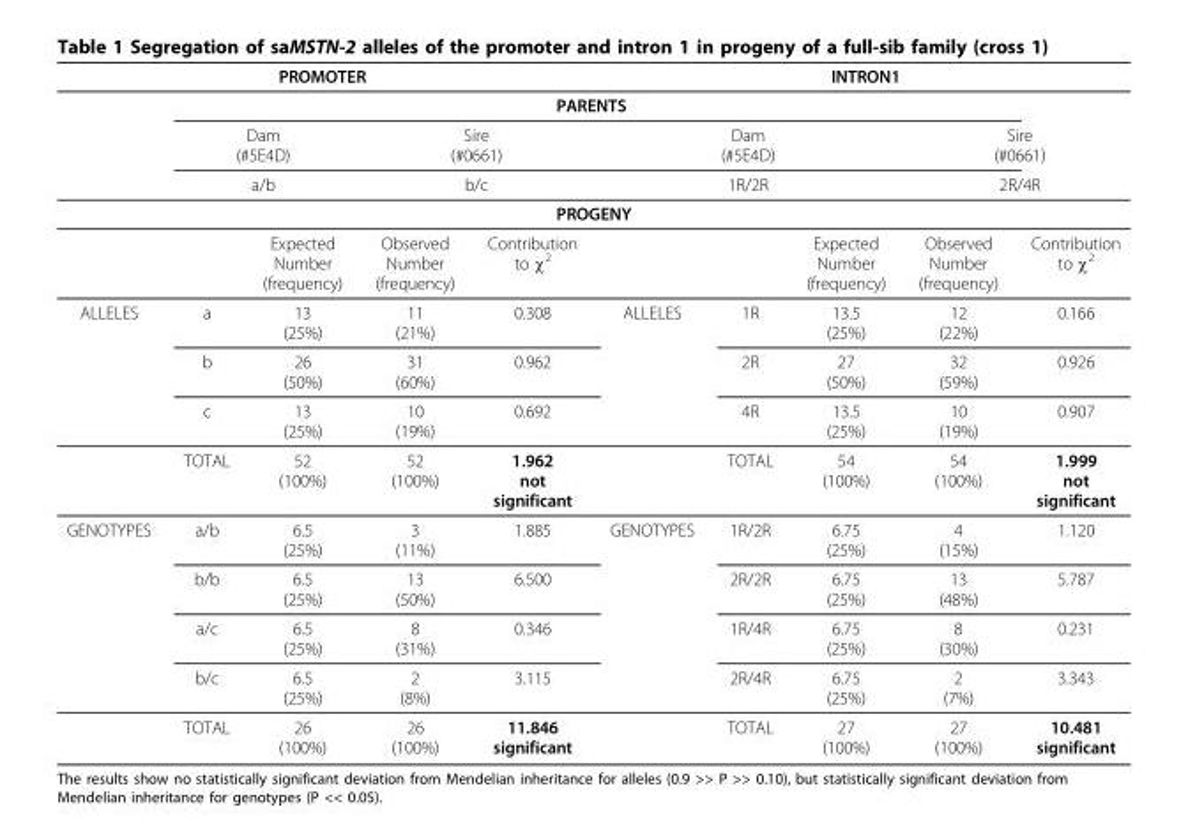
<table><thead><tr><td colspan="5">PROMOTER</td><td colspan="5">INTRON1</td></tr></thead><tbody><tr><td></td><td colspan="8">PARENTS</td><td></td></tr><tr><td></td><td colspan="2">Dam (#5E4D)</td><td colspan="2">Sire (#0661)</td><td colspan="3">Dam (#5E4D)</td><td colspan="2">Sire (#0661)</td></tr><tr><td></td><td colspan="2">a/b</td><td colspan="2">b/c</td><td colspan="3">1R/2R</td><td colspan="2">2R/4R</td></tr><tr><td colspan="10">PROGENY</td></tr><tr><td></td><td></td><td>Expected Number (frequency)</td><td>Observed Number (frequency)</td><td>Contribution to χ<sup>2</sup></td><td></td><td></td><td>Expected Number (frequency)</td><td>Observed Number (frequency)</td><td>Contribution to χ<sup>2</sup></td></tr><tr><td rowspan="4">ALLELES</td><td>a</td><td>13 (25%)</td><td>11 (21%)</td><td>0.308</td><td>ALLELES</td><td>1R</td><td>13.5 (25%)</td><td>12 (22%)</td><td>0.166</td></tr><tr><td>b</td><td>26 (50%)</td><td>31 (60%)</td><td>0.962</td><td></td><td>2R</td><td>27 (50%)</td><td>32 (59%)</td><td>0.926</td></tr><tr><td>c</td><td>13 (25%)</td><td>10 (19%)</td><td>0.692</td><td></td><td>4R</td><td>13.5 (25%)</td><td>10 (19%)</td><td>0.907</td></tr><tr><td>TOTAL</td><td>52 (100%)</td><td>52 (100%)</td><td>1.962 not significant</td><td></td><td>TOTAL</td><td>54 (100%)</td><td>54 (100%)</td><td>1.999 not significant</td></tr><tr><td rowspan="5">GENOTYPES</td><td>a/b</td><td>6.5 (25%)</td><td>3 (11%)</td><td>1.885</td><td>GENOTYPES</td><td>1R/2R</td><td>6.75 (25%)</td><td>4 (15%)</td><td>1.120</td></tr><tr><td>b/b</td><td>6.5 (25%)</td><td>13 (50%)</td><td>6.500</td><td></td><td>2R/2R</td><td>6.75 (25%)</td><td>13 (48%)</td><td>5.787</td></tr><tr><td>a/c</td><td>6.5 (25%)</td><td>8 (31%)</td><td>0.346</td><td></td><td>1R/4R</td><td>6.75 (25%)</td><td>8 (30%)</td><td>0.231</td></tr><tr><td>b/c</td><td>6.5 (25%)</td><td>2 (8%)</td><td>3.115</td><td></td><td>2R/4R</td><td>6.75 (25%)</td><td>2 (7%)</td><td>3.343</td></tr><tr><td>TOTAL</td><td>26 (100%)</td><td>26 (100%)</td><td>11.846 significant</td><td></td><td>TOTAL</td><td>27 (100%)</td><td>27 (100%)</td><td>10.481 significant</td></tr></tbody></table>